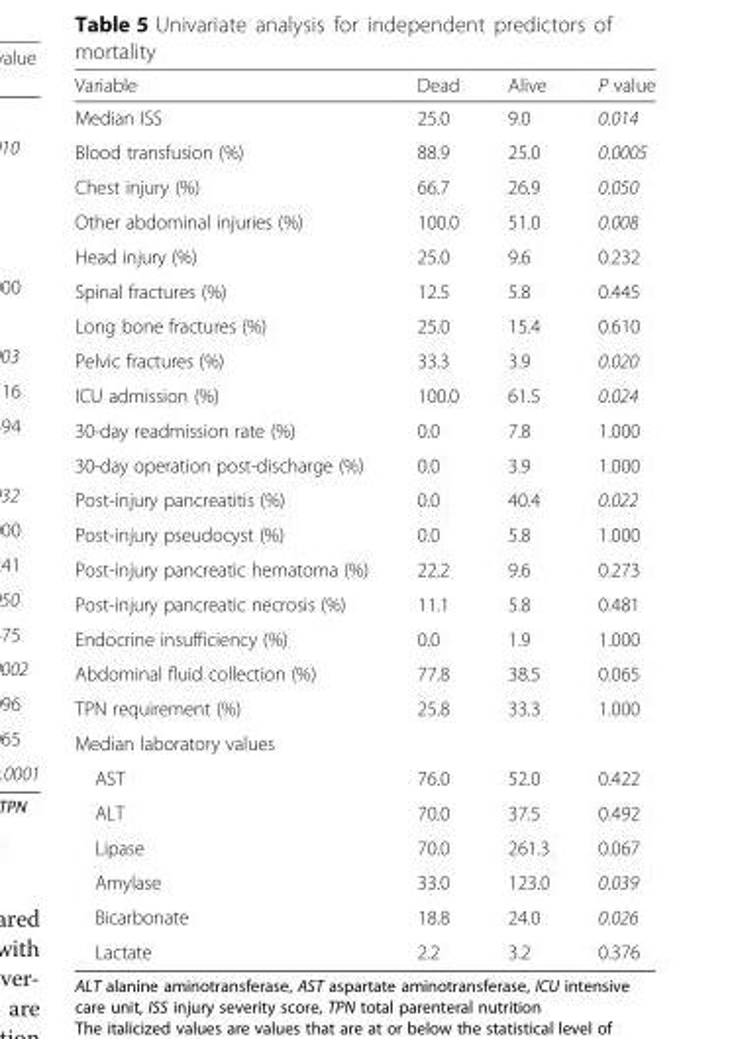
<table><thead><tr><td>Variable</td><td>Dead</td><td>Alive</td><td>P value</td></tr></thead><tbody><tr><td>Median ISS</td><td>25.0</td><td>9.0</td><td>0.014</td></tr><tr><td>Blood transfusion (%)</td><td>88.9</td><td>25.0</td><td>0.0005</td></tr><tr><td>Chest injury (%)</td><td>66.7</td><td>26.9</td><td>0.050</td></tr><tr><td>Other abdominal injuries (%)</td><td>100.0</td><td>51.0</td><td>0.008</td></tr><tr><td>Head injury (%)</td><td>25.0</td><td>9.6</td><td>0.232</td></tr><tr><td>Spinal fractures (%)</td><td>12.5</td><td>5.8</td><td>0.445</td></tr><tr><td>Long bone fractures (%)</td><td>25.0</td><td>15.4</td><td>0.610</td></tr><tr><td>Pelvic fractures (%)</td><td>33.3</td><td>3.9</td><td>0.020</td></tr><tr><td>ICU admission (%)</td><td>100.0</td><td>61.5</td><td>0.024</td></tr><tr><td>30-day readmission rate (%)</td><td>0.0</td><td>7.8</td><td>1.000</td></tr><tr><td>30-day operation post-discharge (%)</td><td>0.0</td><td>3.9</td><td>1.000</td></tr><tr><td>Post-injury pancreatitis (%)</td><td>0.0</td><td>40.4</td><td>0.022</td></tr><tr><td>Post-injury pseudocyst (%)</td><td>0.0</td><td>5.8</td><td>1.000</td></tr><tr><td>Post-injury pancreatic hematoma (%)</td><td>22.2</td><td>9.6</td><td>0.273</td></tr><tr><td>Post-injury pancreatic necrosis (%)</td><td>11.1</td><td>5.8</td><td>0.481</td></tr><tr><td>Endocrine insufficiency (%)</td><td>0.0</td><td>1.9</td><td>1.000</td></tr><tr><td>Abdominal fluid collection (%)</td><td>77.8</td><td>38.5</td><td>0.065</td></tr><tr><td>TPN requirement (%)</td><td>25.8</td><td>33.3</td><td>1.000</td></tr><tr><td colspan="4">Median laboratory values</td></tr><tr><td>AST</td><td>76.0</td><td>52.0</td><td>0.422</td></tr><tr><td>ALT</td><td>70.0</td><td>37.5</td><td>0.492</td></tr><tr><td>Lipase</td><td>70.0</td><td>261.3</td><td>0.067</td></tr><tr><td>Amylase</td><td>33.0</td><td>123.0</td><td>0.039</td></tr><tr><td>Bicarbonate</td><td>18.8</td><td>24.0</td><td>0.026</td></tr><tr><td>Lactate</td><td>2.2</td><td>3.2</td><td>0.376</td></tr></tbody></table>